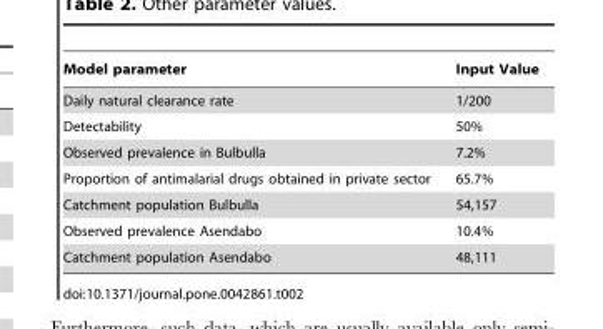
<table><thead><tr><td>Model parameter</td><td>Input Value</td></tr></thead><tbody><tr><td>Daily natural clearance rate</td><td>1/200</td></tr><tr><td>Detectability</td><td>50%</td></tr><tr><td>Observed prevalence in Bulbulla</td><td>7.2%</td></tr><tr><td>Proportion of antimalarial drugs obtained in private sector</td><td>65.7%</td></tr><tr><td>Catchment population Bulbulla</td><td>54,157</td></tr><tr><td>Observed prevalence Asendabo</td><td>10.4%</td></tr><tr><td>Catchment population Asendabo</td><td>48,111</td></tr></tbody></table>